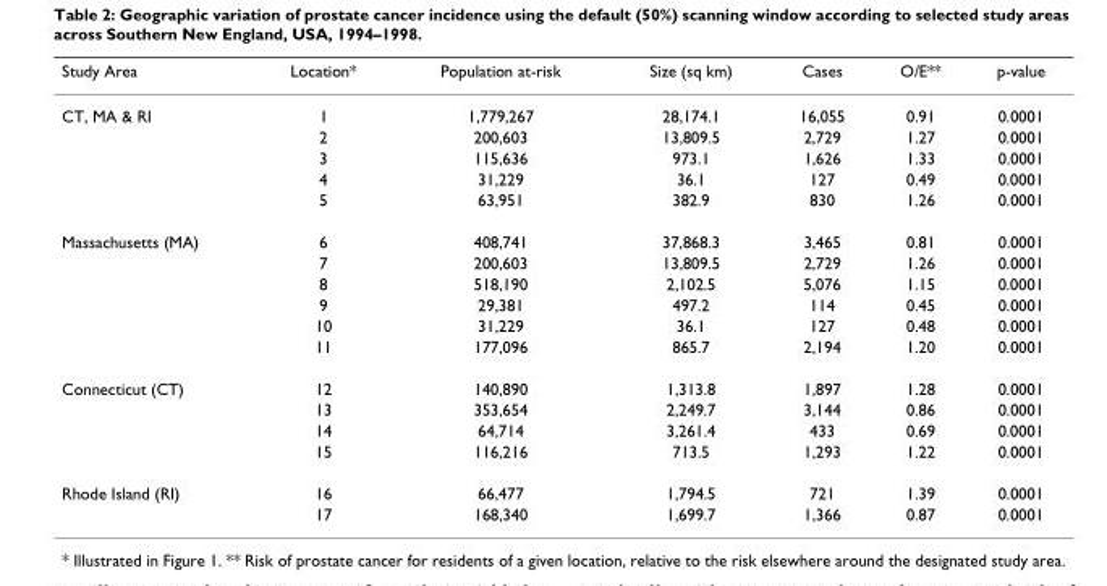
<table><thead><tr><td>Study Area</td><td>Location*</td><td>Population at-risk</td><td>Size (sq km)</td><td>Cases</td><td>O/E**</td><td>p-value</td></tr></thead><tbody><tr><td rowspan="5">CT, MA &amp; RI</td><td>1</td><td>1,779,267</td><td>28,174.1</td><td>16,055</td><td>0.91</td><td>0.0001</td></tr><tr><td>2</td><td>200,603</td><td>13,809.5</td><td>2,729</td><td>1.27</td><td>0.0001</td></tr><tr><td>3</td><td>115,636</td><td>973.1</td><td>1,626</td><td>1.33</td><td>0.0001</td></tr><tr><td>4</td><td>31,229</td><td>36.1</td><td>127</td><td>0.49</td><td>0.0001</td></tr><tr><td>5</td><td>63,951</td><td>382.9</td><td>830</td><td>1.26</td><td>0.0001</td></tr><tr><td rowspan="6">Massachusetts (MA)</td><td>6</td><td>408,741</td><td>37,868.3</td><td>3,465</td><td>0.81</td><td>0.0001</td></tr><tr><td>7</td><td>200,603</td><td>13,809.5</td><td>2,729</td><td>1.26</td><td>0.0001</td></tr><tr><td>8</td><td>518,190</td><td>2,102.5</td><td>5,076</td><td>1.15</td><td>0.0001</td></tr><tr><td>9</td><td>29,381</td><td>497.2</td><td>114</td><td>0.45</td><td>0.0001</td></tr><tr><td>10</td><td>31,229</td><td>36.1</td><td>127</td><td>0.48</td><td>0.0001</td></tr><tr><td>11</td><td>177,096</td><td>865.7</td><td>2,194</td><td>1.20</td><td>0.0001</td></tr><tr><td rowspan="4">Connecticut (CT)</td><td>12</td><td>140,890</td><td>1,313.8</td><td>1,897</td><td>1.28</td><td>0.0001</td></tr><tr><td>13</td><td>353,654</td><td>2,249.7</td><td>3,144</td><td>0.86</td><td>0.0001</td></tr><tr><td>14</td><td>64,714</td><td>3,261.4</td><td>433</td><td>0.69</td><td>0.0001</td></tr><tr><td>15</td><td>116,216</td><td>713.5</td><td>1,293</td><td>1.22</td><td>0.0001</td></tr><tr><td rowspan="2">Rhode Island (RI)</td><td>16</td><td>66,477</td><td>1,794.5</td><td>721</td><td>1.39</td><td>0.0001</td></tr><tr><td>17</td><td>168,340</td><td>1,699.7</td><td>1,366</td><td>0.87</td><td>0.0001</td></tr></tbody></table>